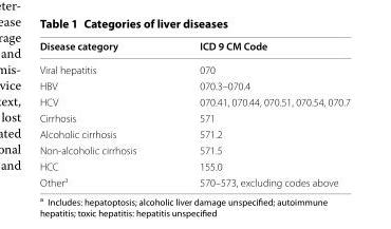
<table><thead><tr><td>Disease category</td><td>ICD 9 CM Code</td></tr></thead><tbody><tr><td>Viral hepatitis</td><td>070</td></tr><tr><td>HBV</td><td>070.3–070.4</td></tr><tr><td>HCV</td><td>070.41, 070.44, 070.51, 070.54, 070.7</td></tr><tr><td>Cirrhosis</td><td>571</td></tr><tr><td>Alcoholic cirrhosis</td><td>571.2</td></tr><tr><td>Non-alcoholic cirrhosis</td><td>571.5</td></tr><tr><td>HCC</td><td>155.0</td></tr><tr><td>Other<sup>a</sup></td><td>570–573, excluding codes above</td></tr></tbody></table>